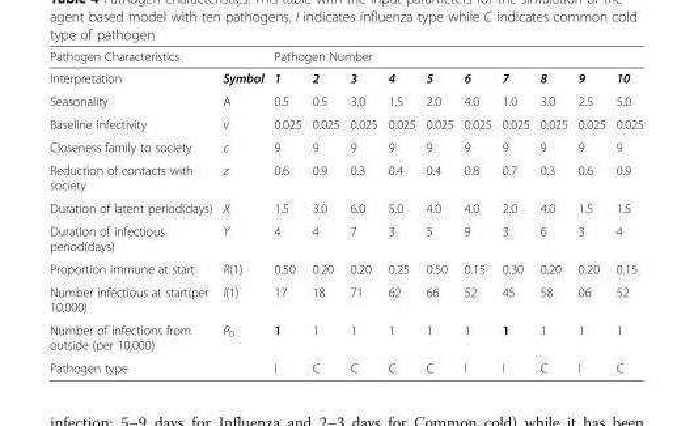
<table><thead><tr><td rowspan="2">Pathogen Characteristics Interpretation</td><td rowspan="2">Symbol</td><td colspan="10">Pathogen Number</td></tr><tr><td>1</td><td>2</td><td>3</td><td>4</td><td>5</td><td>6</td><td>7</td><td>8</td><td>9</td><td>10</td></tr></thead><tbody><tr><td>Seasonality</td><td>A</td><td>0.5</td><td>0.5</td><td>3.0</td><td>1.5</td><td>2.0</td><td>4.0</td><td>1.0</td><td>3.0</td><td>2.5</td><td>5.0</td></tr><tr><td>Baseline infectivity</td><td>v</td><td>0.025</td><td>0.025</td><td>0.025</td><td>0.025</td><td>0.025</td><td>0.025</td><td>0.025</td><td>0.025</td><td>0.025</td><td>0.025</td></tr><tr><td>Closeness family to society</td><td>c</td><td>9</td><td>9</td><td>9</td><td>9</td><td>9</td><td>9</td><td>9</td><td>9</td><td>9</td><td>9</td></tr><tr><td>Reduction of contacts with society</td><td>z</td><td>0.6</td><td>0.9</td><td>0.3</td><td>0.4</td><td>0.4</td><td>0.8</td><td>0.7</td><td>0.3</td><td>0.6</td><td>0.9</td></tr><tr><td>Duration of latent period(days)</td><td>X</td><td>1.5</td><td>3.0</td><td>6.0</td><td>5.0</td><td>4.0</td><td>4.0</td><td>2.0</td><td>4.0</td><td>1.5</td><td>1.5</td></tr><tr><td>Duration of infectious period(days)</td><td>Y</td><td>4</td><td>4</td><td>7</td><td>3</td><td>5</td><td>9</td><td>3</td><td>6</td><td>3</td><td>4</td></tr><tr><td>Proportion immune at start</td><td>R(1)</td><td>0.50</td><td>0.20</td><td>0.20</td><td>0.25</td><td>0.50</td><td>0.15</td><td>0.30</td><td>0.20</td><td>0.20</td><td>0.15</td></tr><tr><td>Number infectious at start(per 10,000)</td><td>I(1)</td><td>17</td><td>18</td><td>71</td><td>62</td><td>66</td><td>52</td><td>45</td><td>58</td><td>06</td><td>52</td></tr><tr><td>Number of infections from outside (per 10,000)</td><td>P<sub>0</sub></td><td>1</td><td>1</td><td>1</td><td>1</td><td>1</td><td>1</td><td>1</td><td>1</td><td>1</td><td>1</td></tr><tr><td>Pathogen type</td><td></td><td>I</td><td>C</td><td>C</td><td>C</td><td>C</td><td>I</td><td>I</td><td>C</td><td>I</td><td>C</td></tr></tbody></table>